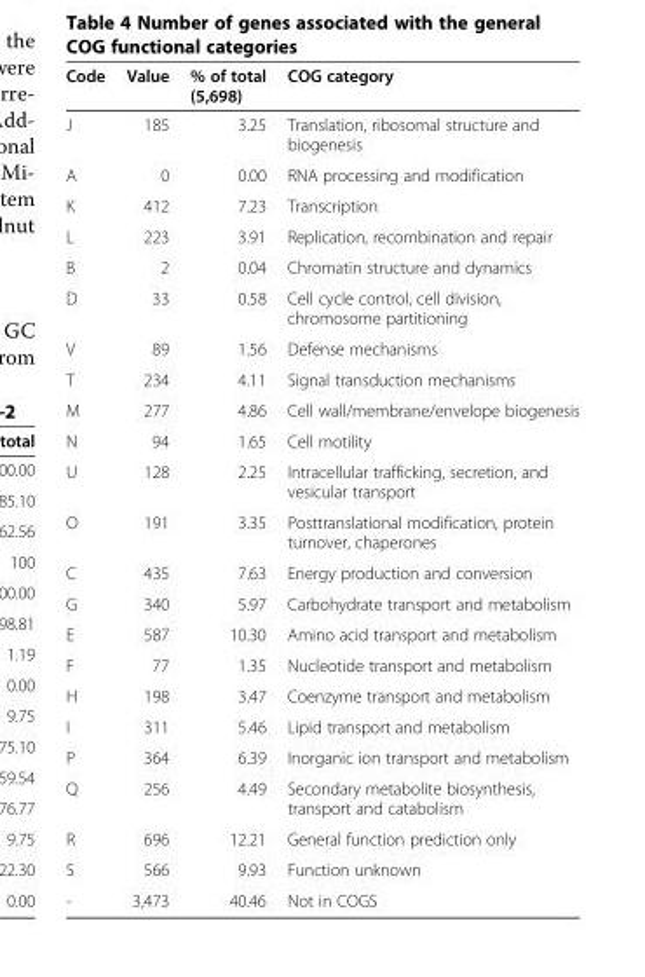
<table><thead><tr><td>Code</td><td>Value</td><td>% of total (5,698)</td><td>COG category</td></tr></thead><tbody><tr><td>J</td><td>185</td><td>3.25</td><td>Translation, ribosomal structure and biogenesis</td></tr><tr><td>A</td><td>0</td><td>0.00</td><td>RNA processing and modification</td></tr><tr><td>K</td><td>412</td><td>7.23</td><td>Transcription</td></tr><tr><td>L</td><td>223</td><td>3.91</td><td>Replication, recombination and repair</td></tr><tr><td>B</td><td>2</td><td>0.04</td><td>Chromatin structure and dynamics</td></tr><tr><td>D</td><td>33</td><td>0.58</td><td>Cell cycle control, cell division, chromosome partitioning</td></tr><tr><td>V</td><td>89</td><td>1.56</td><td>Defense mechanisms</td></tr><tr><td>T</td><td>234</td><td>4.11</td><td>Signal transduction mechanisms</td></tr><tr><td>M</td><td>277</td><td>4.86</td><td>Cell wall/membrane/envelope biogenesis</td></tr><tr><td>N</td><td>94</td><td>1.65</td><td>Cell motility</td></tr><tr><td>U</td><td>128</td><td>2.25</td><td>Intracellular trafficking, secretion, and vesicular transport</td></tr><tr><td>O</td><td>191</td><td>3.35</td><td>Posttranslational modification, protein turnover, chaperones</td></tr><tr><td>C</td><td>435</td><td>7.63</td><td>Energy production and conversion</td></tr><tr><td>G</td><td>340</td><td>5.97</td><td>Carbohydrate transport and metabolism</td></tr><tr><td>E</td><td>587</td><td>10.30</td><td>Amino acid transport and metabolism</td></tr><tr><td>F</td><td>77</td><td>1.35</td><td>Nucleotide transport and metabolism</td></tr><tr><td>H</td><td>198</td><td>3.47</td><td>Coenzyme transport and metabolism</td></tr><tr><td>I</td><td>311</td><td>5.46</td><td>Lipid transport and metabolism</td></tr><tr><td>P</td><td>364</td><td>6.39</td><td>Inorganic ion transport and metabolism</td></tr><tr><td>Q</td><td>256</td><td>4.49</td><td>Secondary metabolite biosynthesis, transport and catabolism</td></tr><tr><td>R</td><td>696</td><td>12.21</td><td>General function prediction only</td></tr><tr><td>S</td><td>566</td><td>9.93</td><td>Function unknown</td></tr><tr><td>-</td><td>3,473</td><td>40.46</td><td>Not in COGS</td></tr></tbody></table>